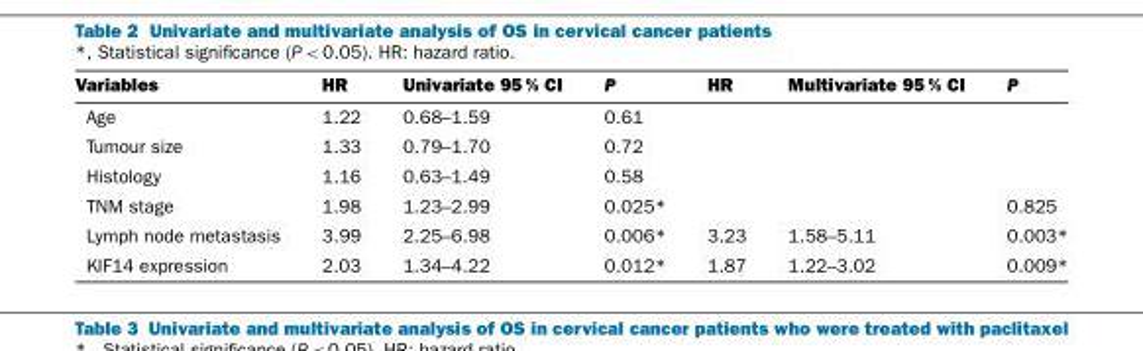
<table><thead><tr><td>Variables</td><td>HR</td><td>Univariate 95 % CI</td><td>P</td><td>HR</td><td>Multivariate 95 % CI</td><td>P</td></tr></thead><tbody><tr><td>Age</td><td>1.22</td><td>0.68–1.59</td><td>0.61</td><td></td><td></td><td></td></tr><tr><td>Tumour size</td><td>1.33</td><td>0.79–1.70</td><td>0.72</td><td></td><td></td><td></td></tr><tr><td>Histology</td><td>1.16</td><td>0.63–1.49</td><td>0.58</td><td></td><td></td><td></td></tr><tr><td>TNM stage</td><td>1.98</td><td>1.23–2.99</td><td>0.025*</td><td></td><td></td><td>0.825</td></tr><tr><td>Lymph node metastasis</td><td>3.99</td><td>2.25–6.98</td><td>0.006*</td><td>3.23</td><td>1.58–5.11</td><td>0.003*</td></tr><tr><td>KIF14 expression</td><td>2.03</td><td>1.34–4.22</td><td>0.012*</td><td>1.87</td><td>1.22–3.02</td><td>0.009*</td></tr></tbody></table>